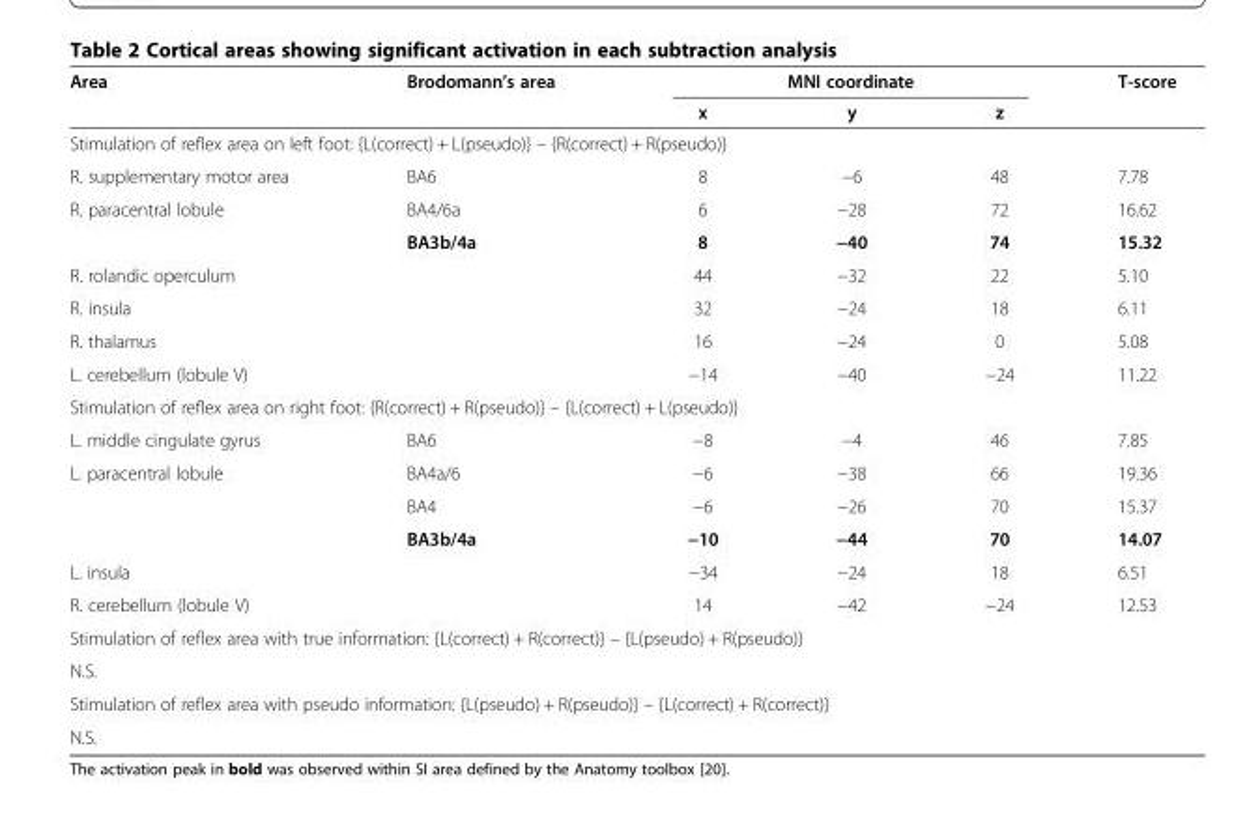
<table><thead><tr><td rowspan="2">Area</td><td rowspan="2">Brodomann’s area</td><td colspan="3">MNI coordinate</td><td rowspan="2">T-score</td></tr><tr><td>x</td><td>y</td><td>z</td></tr></thead><tbody><tr><td colspan="6">Stimulation of reflex area on left foot: {L(correct) + L(pseudo)} – {R(correct) + R(pseudo)}</td></tr><tr><td>R. supplementary motor area</td><td>BA6</td><td>8</td><td>−6</td><td>48</td><td>7.78</td></tr><tr><td rowspan="2">R. paracentral lobule</td><td>BA4/6a</td><td>6</td><td>−28</td><td>72</td><td>16.62</td></tr><tr><td>BA3b/4a</td><td>8</td><td>−40</td><td>74</td><td>15.32</td></tr><tr><td>R. rolandic operculum</td><td></td><td>44</td><td>−32</td><td>22</td><td>5.10</td></tr><tr><td>R. insula</td><td></td><td>32</td><td>−24</td><td>18</td><td>6.11</td></tr><tr><td>R. thalamus</td><td></td><td>16</td><td>−24</td><td>0</td><td>5.08</td></tr><tr><td>L. cerebellum (lobule V)</td><td></td><td>−14</td><td>−40</td><td>−24</td><td>11.22</td></tr><tr><td colspan="6">Stimulation of reflex area on right foot: {R(correct) + R(pseudo)} – {L(correct) + L(pseudo)}</td></tr><tr><td>L. middle cingulate gyrus</td><td>BA6</td><td>−8</td><td>−4</td><td>46</td><td>7.85</td></tr><tr><td rowspan="3">L. paracentral lobule</td><td>BA4a/6</td><td>−6</td><td>−38</td><td>66</td><td>19.36</td></tr><tr><td>BA4</td><td>−6</td><td>−26</td><td>70</td><td>15.37</td></tr><tr><td>BA3b/4a</td><td>−10</td><td>−44</td><td>70</td><td>14.07</td></tr><tr><td>L. insula</td><td></td><td>−34</td><td>−24</td><td>18</td><td>6.51</td></tr><tr><td>R. cerebellum (lobule V)</td><td></td><td>14</td><td>−42</td><td>−24</td><td>12.53</td></tr><tr><td colspan="6">Stimulation of reflex area with true information: {L(correct) + R(correct)} – {L(pseudo) + R(pseudo)}</td></tr><tr><td colspan="6">N.S.</td></tr><tr><td colspan="6">Stimulation of reflex area with pseudo information: {L(pseudo) + R(pseudo)} – {L(correct) + R(correct)}</td></tr><tr><td colspan="6">N.S.</td></tr></tbody></table>